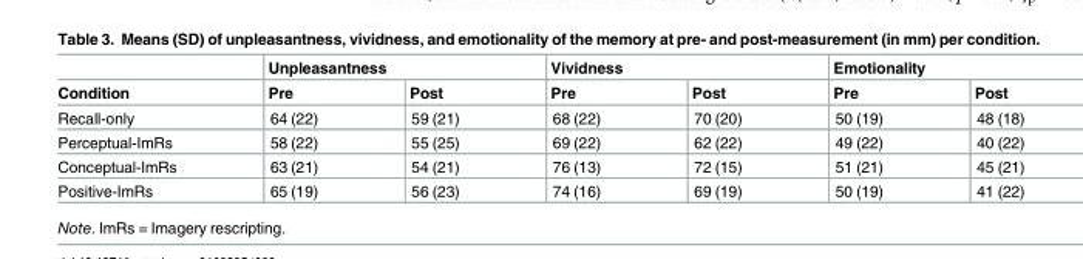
<table><thead><tr><td rowspan="2">Condition</td><td colspan="2">Unpleasantness</td><td colspan="2">Vividness</td><td colspan="2">Emotionality</td></tr><tr><td>Pre</td><td>Post</td><td>Pre</td><td>Post</td><td>Pre</td><td>Post</td></tr></thead><tbody><tr><td>Recall-only</td><td>64 (22)</td><td>59 (21)</td><td>68 (22)</td><td>70 (20)</td><td>50 (19)</td><td>48 (18)</td></tr><tr><td>Perceptual-ImRs</td><td>58 (22)</td><td>55 (25)</td><td>69 (22)</td><td>62 (22)</td><td>49 (22)</td><td>40 (22)</td></tr><tr><td>Conceptual-ImRs</td><td>63 (21)</td><td>54 (21)</td><td>76 (13)</td><td>72 (15)</td><td>51 (21)</td><td>45 (21)</td></tr><tr><td>Positive-ImRs</td><td>65 (19)</td><td>56 (23)</td><td>74 (16)</td><td>69 (19)</td><td>50 (19)</td><td>41 (22)</td></tr></tbody></table>